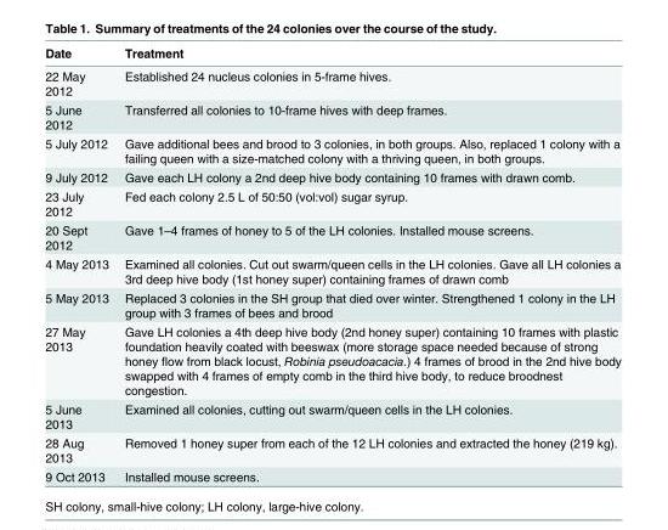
<table><thead><tr><td>Date</td><td>Treatment</td></tr></thead><tbody><tr><td>22 May 2012</td><td>Established 24 nucleus colonies in 5-frame hives.</td></tr><tr><td>5 June 2012</td><td>Transferred all colonies to 10-frame hives with deep frames.</td></tr><tr><td>5 July 2012</td><td>Gave additional bees and brood to 3 colonies, in both groups. Also, replaced 1 colony with a failing queen with a size-matched colony with a thriving queen, in both groups.</td></tr><tr><td>9 July 2012</td><td>Gave each LH colony a 2nd deep hive body containing 10 frames with drawn comb.</td></tr><tr><td>23 July 2012</td><td>Fed each colony 2.5 L of 50:50 (vol:vol) sugar syrup.</td></tr><tr><td>20 Sept 2012</td><td>Gave 1–4 frames of honey to 5 of the LH colonies. Installed mouse screens.</td></tr><tr><td>4 May 2013</td><td>Examined all colonies. Cut out swarm/queen cells in the LH colonies. Gave all LH colonies a 3rd deep hive body (1st honey super) containing frames of drawn comb</td></tr><tr><td>5 May 2013</td><td>Replaced 3 colonies in the SH group that died over winter. Strengthened 1 colony in the LH group with 3 frames of bees and brood</td></tr><tr><td>27 May 2013</td><td>Gave LH colonies a 4th deep hive body (2nd honey super) containing 10 frames with plastic foundation heavily coated with beeswax (more storage space needed because of strong honey flow from black locust, Robinia pseudoacacia.) 4 frames of brood in the 2nd hive body swapped with 4 frames of empty comb in the third hive body, to reduce broodnest congestion.</td></tr><tr><td>5 June 2013</td><td>Examined all colonies, cutting out swarm/queen cells in the LH colonies.</td></tr><tr><td>28 Aug 2013</td><td>Removed 1 honey super from each of the 12 LH colonies and extracted the honey (219 kg).</td></tr><tr><td>9 Oct 2013</td><td>Installed mouse screens.</td></tr></tbody></table>